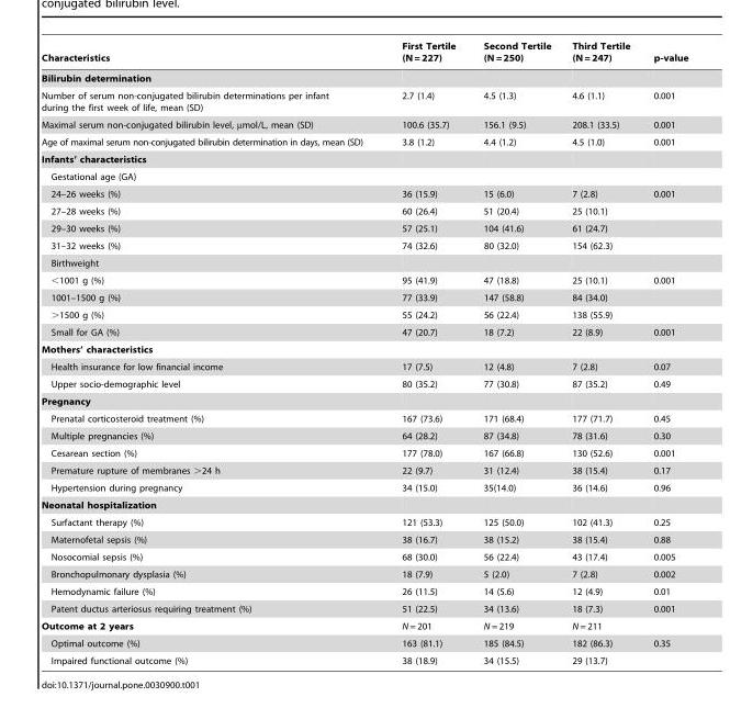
<table><thead><tr><td>Characteristics</td><td>First Tertile (N = 227)</td><td>Second Tertile (N = 250)</td><td>Third Tertile (N = 247)</td><td>p-value</td></tr></thead><tbody><tr><td colspan="5">Bilirubin determination</td></tr><tr><td>Number of serum non-conjugated bilirubin determinations per infant during the first week of life, mean (SD)</td><td>2.7 (1.4)</td><td>4.5 (1.3)</td><td>4.6 (1.1)</td><td>0.001</td></tr><tr><td>Maximal serum non-conjugated bilirubin level, µmol/L, mean (SD)</td><td>100.6 (35.7)</td><td>156.1 (9.5)</td><td>208.1 (33.5)</td><td>0.001</td></tr><tr><td>Age of maximal serum non-conjugated bilirubin determination in days, mean (SD)</td><td>3.8 (1.2)</td><td>4.4 (1.2)</td><td>4.5 (1.0)</td><td>0.001</td></tr><tr><td colspan="5">Infants’ characteristics</td></tr><tr><td colspan="5">Gestational age (GA)</td></tr><tr><td>24–26 weeks (%)</td><td>36 (15.9)</td><td>15 (6.0)</td><td>7 (2.8)</td><td>0.001</td></tr><tr><td>27–28 weeks (%)</td><td>60 (26.4)</td><td>51 (20.4)</td><td>25 (10.1)</td><td></td></tr><tr><td>29–30 weeks (%)</td><td>57 (25.1)</td><td>104 (41.6)</td><td>61 (24.7)</td><td></td></tr><tr><td>31–32 weeks (%)</td><td>74 (32.6)</td><td>80 (32.0)</td><td>154 (62.3)</td><td></td></tr><tr><td colspan="5">Birthweight</td></tr><tr><td>&lt;1001 g (%)</td><td>95 (41.9)</td><td>47 (18.8)</td><td>25 (10.1)</td><td>0.001</td></tr><tr><td>1001–1500 g (%)</td><td>77 (33.9)</td><td>147 (58.8)</td><td>84 (34.0)</td><td></td></tr><tr><td>&gt;1500 g (%)</td><td>55 (24.2)</td><td>56 (22.4)</td><td>138 (55.9)</td><td></td></tr><tr><td>Small for GA (%)</td><td>47 (20.7)</td><td>18 (7.2)</td><td>22 (8.9)</td><td>0.001</td></tr><tr><td colspan="5">Mothers’ characteristics</td></tr><tr><td>Health insurance for low financial income</td><td>17 (7.5)</td><td>12 (4.8)</td><td>7 (2.8)</td><td>0.07</td></tr><tr><td>Upper socio-demographic level</td><td>80 (35.2)</td><td>77 (30.8)</td><td>87 (35.2)</td><td>0.49</td></tr><tr><td colspan="5">Pregnancy</td></tr><tr><td>Prenatal corticosteroid treatment (%)</td><td>167 (73.6)</td><td>171 (68.4)</td><td>177 (71.7)</td><td>0.45</td></tr><tr><td>Multiple pregnancies (%)</td><td>64 (28.2)</td><td>87 (34.8)</td><td>78 (31.6)</td><td>0.30</td></tr><tr><td>Cesarean section (%)</td><td>177 (78.0)</td><td>167 (66.8)</td><td>130 (52.6)</td><td>0.001</td></tr><tr><td>Premature rupture of membranes &gt;24 h</td><td>22 (9.7)</td><td>31 (12.4)</td><td>38 (15.4)</td><td>0.17</td></tr><tr><td>Hypertension during pregnancy</td><td>34 (15.0)</td><td>35(14.0)</td><td>36 (14.6)</td><td>0.96</td></tr><tr><td colspan="5">Neonatal hospitalization</td></tr><tr><td>Surfactant therapy (%)</td><td>121 (53.3)</td><td>125 (50.0)</td><td>102 (41.3)</td><td>0.25</td></tr><tr><td>Maternofetal sepsis (%)</td><td>38 (16.7)</td><td>38 (15.2)</td><td>38 (15.4)</td><td>0.88</td></tr><tr><td>Nosocomial sepsis (%)</td><td>68 (30.0)</td><td>56 (22.4)</td><td>43 (17.4)</td><td>0.005</td></tr><tr><td>Bronchopulmonary dysplasia (%)</td><td>18 (7.9)</td><td>5 (2.0)</td><td>7 (2.8)</td><td>0.002</td></tr><tr><td>Hemodynamic failure (%)</td><td>26 (11.5)</td><td>14 (5.6)</td><td>12 (4.9)</td><td>0.01</td></tr><tr><td>Patent ductus arteriosus requiring treatment (%)</td><td>51 (22.5)</td><td>34 (13.6)</td><td>18 (7.3)</td><td>0.001</td></tr><tr><td>Outcome at 2 years</td><td>N = 201</td><td>N = 219</td><td>N = 211</td><td></td></tr><tr><td>Optimal outcome (%)</td><td>163 (81.1)</td><td>185 (84.5)</td><td>182 (86.3)</td><td>0.35</td></tr><tr><td>Impaired functional outcome (%)</td><td>38 (18.9)</td><td>34 (15.5)</td><td>29 (13.7)</td><td></td></tr></tbody></table>